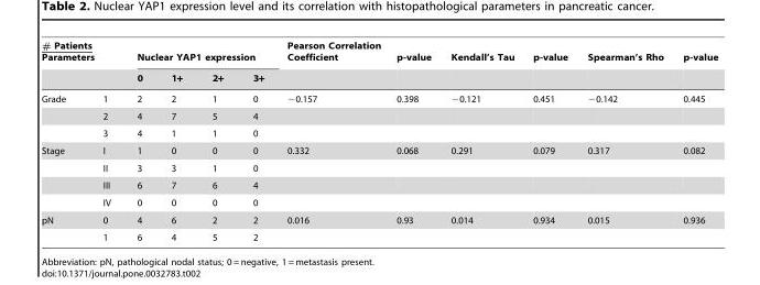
<table><thead><tr><td colspan="2"># Patients Parameters</td><td colspan="4">Nuclear YAP1 expression</td><td rowspan="2">Pearson Correlation Coefficient</td><td rowspan="2">p-value</td><td rowspan="2">Kendall’s Tau</td><td rowspan="2">p-value</td><td rowspan="2">Spearman’s Rho</td><td rowspan="2">p-value</td></tr><tr><td></td><td></td><td>0</td><td>1+</td><td>2+</td><td>3+</td></tr></thead><tbody><tr><td rowspan="3">Grade</td><td>1</td><td>2</td><td>2</td><td>1</td><td>0</td><td>−0.157</td><td>0.398</td><td>−0.121</td><td>0.451</td><td>−0.142</td><td>0.445</td></tr><tr><td>2</td><td>4</td><td>7</td><td>5</td><td>4</td><td></td><td></td><td></td><td></td><td></td><td></td></tr><tr><td>3</td><td>4</td><td>1</td><td>1</td><td>0</td><td></td><td></td><td></td><td></td><td></td><td></td></tr><tr><td rowspan="4">Stage</td><td>I</td><td>1</td><td>0</td><td>0</td><td>0</td><td>0.332</td><td>0.068</td><td>0.291</td><td>0.079</td><td>0.317</td><td>0.082</td></tr><tr><td>II</td><td>3</td><td>3</td><td>1</td><td>0</td><td></td><td></td><td></td><td></td><td></td><td></td></tr><tr><td>III</td><td>6</td><td>7</td><td>6</td><td>4</td><td></td><td></td><td></td><td></td><td></td><td></td></tr><tr><td>IV</td><td>0</td><td>0</td><td>0</td><td>0</td><td></td><td></td><td></td><td></td><td></td><td></td></tr><tr><td rowspan="2">pN</td><td>0</td><td>4</td><td>6</td><td>2</td><td>2</td><td>0.016</td><td>0.93</td><td>0.014</td><td>0.934</td><td>0.015</td><td>0.936</td></tr><tr><td>1</td><td>6</td><td>4</td><td>5</td><td>2</td><td></td><td></td><td></td><td></td><td></td><td></td></tr></tbody></table>